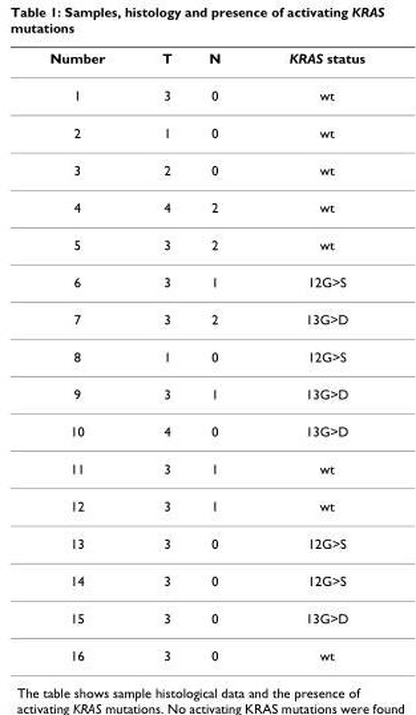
<table><thead><tr><td>Number</td><td>T</td><td>N</td><td>KRAS status</td></tr></thead><tbody><tr><td>1</td><td>3</td><td>0</td><td>wt</td></tr><tr><td>2</td><td>1</td><td>0</td><td>wt</td></tr><tr><td>3</td><td>2</td><td>0</td><td>wt</td></tr><tr><td>4</td><td>4</td><td>2</td><td>wt</td></tr><tr><td>5</td><td>3</td><td>2</td><td>wt</td></tr><tr><td>6</td><td>3</td><td>1</td><td>12G&gt;S</td></tr><tr><td>7</td><td>3</td><td>2</td><td>13G&gt;D</td></tr><tr><td>8</td><td>1</td><td>0</td><td>12G&gt;S</td></tr><tr><td>9</td><td>3</td><td>1</td><td>13G&gt;D</td></tr><tr><td>10</td><td>4</td><td>0</td><td>13G&gt;D</td></tr><tr><td>11</td><td>3</td><td>1</td><td>wt</td></tr><tr><td>12</td><td>3</td><td>1</td><td>wt</td></tr><tr><td>13</td><td>3</td><td>0</td><td>12G&gt;S</td></tr><tr><td>14</td><td>3</td><td>0</td><td>12G&gt;S</td></tr><tr><td>15</td><td>3</td><td>0</td><td>13G&gt;D</td></tr><tr><td>16</td><td>3</td><td>0</td><td>wt</td></tr></tbody></table>